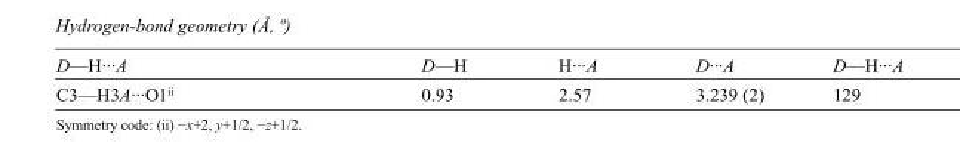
<table><tbody><tr><td>D—H···A</td><td>D—H</td><td>H···A</td><td>D···A</td><td>D—H···A</td></tr><tr><td>C3—H3A···O1<sup>ii</sup></td><td>0.93</td><td>2.57</td><td>3.239 (2)</td><td>129</td></tr></tbody></table>